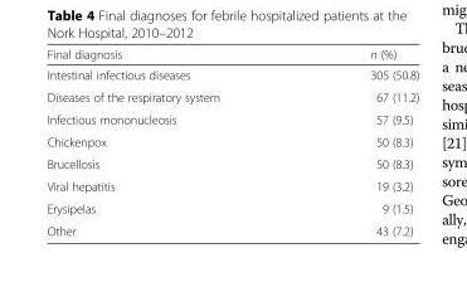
<table><thead><tr><td>Final diagnosis</td><td>n (%)</td></tr></thead><tbody><tr><td>Intestinal infectious diseases</td><td>305 (50.8)</td></tr><tr><td>Diseases of the respiratory system</td><td>67 (11.2)</td></tr><tr><td>Infectious mononucleosis</td><td>57 (9.5)</td></tr><tr><td>Chickenpox</td><td>50 (8.3)</td></tr><tr><td>Brucellosis</td><td>50 (8.3)</td></tr><tr><td>Viral hepatitis</td><td>19 (3.2)</td></tr><tr><td>Erysipelas</td><td>9 (1.5)</td></tr><tr><td>Other</td><td>43 (7.2)</td></tr></tbody></table>